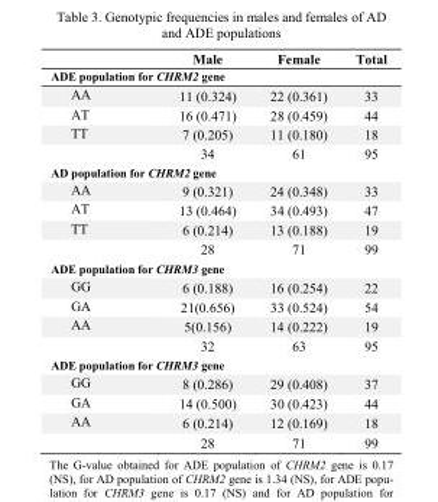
<table><thead><tr><td></td><td>Male</td><td>Female</td><td>Total</td></tr></thead><tbody><tr><td colspan="4">ADE population for CHRM2 gene</td></tr><tr><td>AA</td><td>11 (0.324)</td><td>22 (0.361)</td><td>33</td></tr><tr><td>AT</td><td>16 (0.471)</td><td>28 (0.459)</td><td>44</td></tr><tr><td rowspan="2">TT</td><td>7 (0.205)</td><td>11 (0.180)</td><td>18</td></tr><tr><td>34</td><td>61</td><td>95</td></tr><tr><td colspan="4">AD population for CHRM2 gene</td></tr><tr><td>AA</td><td>9 (0.321)</td><td>24 (0.348)</td><td>33</td></tr><tr><td>AT</td><td>13 (0.464)</td><td>34 (0.493)</td><td>47</td></tr><tr><td rowspan="2">TT</td><td>6 (0.214)</td><td>13 (0.188)</td><td>19</td></tr><tr><td>28</td><td>71</td><td>99</td></tr><tr><td colspan="4">ADE population for CHRM3 gene</td></tr><tr><td>GG</td><td>6 (0.188)</td><td>16 (0.254)</td><td>22</td></tr><tr><td>GA</td><td>21(0.656)</td><td>33 (0.524)</td><td>54</td></tr><tr><td rowspan="2">AA</td><td>5(0.156)</td><td>14 (0.222)</td><td>19</td></tr><tr><td>32</td><td>63</td><td>95</td></tr><tr><td colspan="4">ADE population for CHRM3 gene</td></tr><tr><td>GG</td><td>8 (0.286)</td><td>29 (0.408)</td><td>37</td></tr><tr><td>GA</td><td>14 (0.500)</td><td>30 (0.423)</td><td>44</td></tr><tr><td rowspan="2">AA</td><td>6 (0.214)</td><td>12 (0.169)</td><td>18</td></tr><tr><td>28</td><td>71</td><td>99</td></tr></tbody></table>